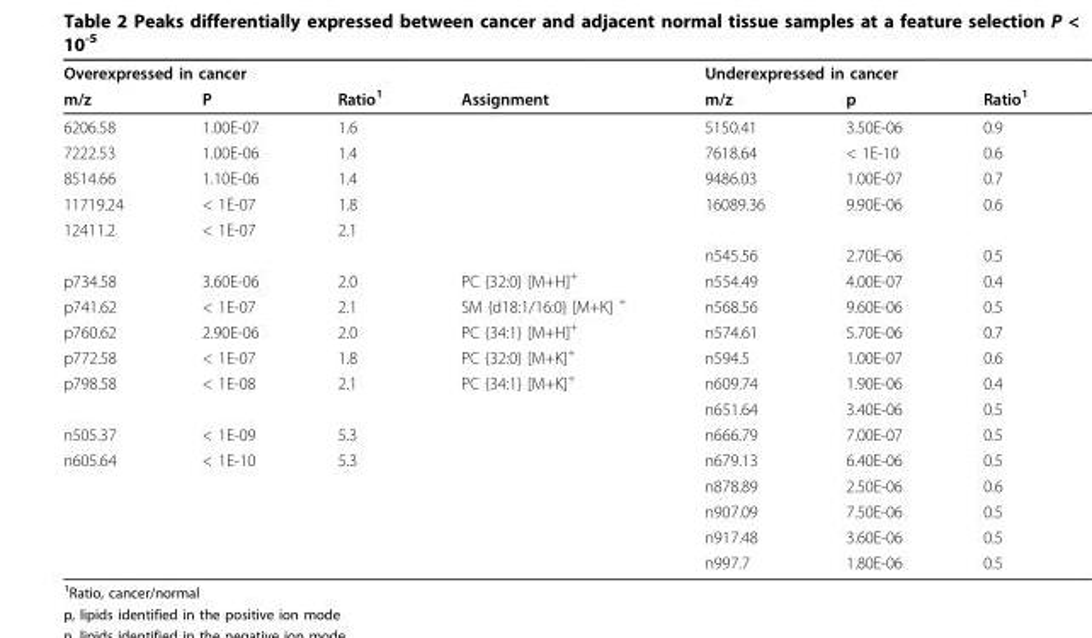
<table><thead><tr><td colspan="3">Overexpressed in cancer</td><td rowspan="2">Assignment</td><td colspan="3">Underexpressed in cancer</td></tr><tr><td>m/z</td><td>P</td><td>Ratio<sup>1</sup></td><td>m/z</td><td>p</td><td>Ratio<sup>1</sup></td></tr></thead><tbody><tr><td>6206.58</td><td>1.00E-07</td><td>1.6</td><td></td><td>5150.41</td><td>3.50E-06</td><td>0.9</td></tr><tr><td>7222.53</td><td>1.00E-06</td><td>1.4</td><td></td><td>7618.64</td><td>&lt; 1E-10</td><td>0.6</td></tr><tr><td>8514.66</td><td>1.10E-06</td><td>1.4</td><td></td><td>9486.03</td><td>1.00E-07</td><td>0.7</td></tr><tr><td>11719.24</td><td>&lt; 1E-07</td><td>1.8</td><td></td><td>16089.36</td><td>9.90E-06</td><td>0.6</td></tr><tr><td rowspan="2">12411.2</td><td>&lt; 1E-07</td><td>2.1</td><td></td><td></td><td></td><td></td></tr><tr><td></td><td></td><td></td><td>n545.56</td><td>2.70E-06</td><td>0.5</td></tr><tr><td>p734.58</td><td>3.60E-06</td><td>2.0</td><td>PC {32:0} [M+H]<sup>+</sup></td><td>n554.49</td><td>4.00E-07</td><td>0.4</td></tr><tr><td>p741.62</td><td>&lt; 1E-07</td><td>2.1</td><td>SM {d18:1/16:0} [M+K] <sup>+</sup></td><td>n568.56</td><td>9.60E-06</td><td>0.5</td></tr><tr><td>p760.62</td><td>2.90E-06</td><td>2.0</td><td>PC {34:1} [M+H]<sup>+</sup></td><td>n574.61</td><td>5.70E-06</td><td>0.7</td></tr><tr><td>p772.58</td><td>&lt; 1E-07</td><td>1.8</td><td>PC {32:0} [M+K]<sup>+</sup></td><td>n594.5</td><td>1.00E-07</td><td>0.6</td></tr><tr><td rowspan="2">p798.58</td><td>&lt; 1E-08</td><td>2.1</td><td>PC {34:1} [M+K]<sup>+</sup></td><td>n609.74</td><td>1.90E-06</td><td>0.4</td></tr><tr><td></td><td></td><td></td><td>n651.64</td><td>3.40E-06</td><td>0.5</td></tr><tr><td>n505.37</td><td>&lt; 1E-09</td><td>5.3</td><td></td><td>n666.79</td><td>7.00E-07</td><td>0.5</td></tr><tr><td rowspan="5">n605.64</td><td>&lt; 1E-10</td><td>5.3</td><td></td><td>n679.13</td><td>6.40E-06</td><td>0.5</td></tr><tr><td></td><td></td><td></td><td>n878.89</td><td>2.50E-06</td><td>0.6</td></tr><tr><td></td><td></td><td></td><td>n907.09</td><td>7.50E-06</td><td>0.5</td></tr><tr><td></td><td></td><td></td><td>n917.48</td><td>3.60E-06</td><td>0.5</td></tr><tr><td></td><td></td><td></td><td>n997.7</td><td>1.80E-06</td><td>0.5</td></tr></tbody></table>